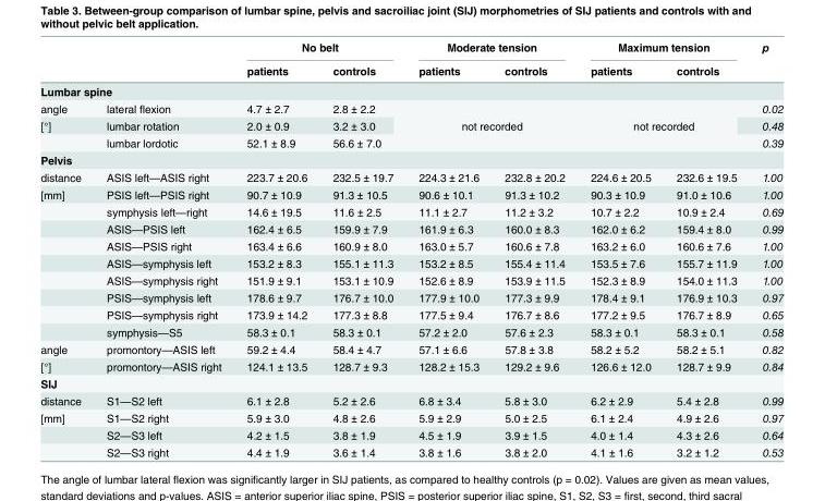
<table><thead><tr><td rowspan="2"></td><td rowspan="2"></td><td colspan="2">No belt</td><td colspan="2">Moderate tension</td><td colspan="2">Maximum tension</td><td rowspan="2">p</td></tr><tr><td>patients</td><td>controls</td><td>patients</td><td>controls</td><td>patients</td><td>controls</td></tr></thead><tbody><tr><td colspan="9">Lumbar spine</td></tr><tr><td>angle</td><td>lateral flexion</td><td>4.7 ± 2.7</td><td>2.8 ± 2.2</td><td rowspan="3" colspan="2">not recorded</td><td rowspan="3" colspan="2">not recorded</td><td>0.02</td></tr><tr><td rowspan="2">[°]</td><td>lumbar rotation</td><td>2.0 ± 0.9</td><td>3.2 ± 3.0</td><td>0.48</td></tr><tr><td>lumbar lordotic</td><td>52.1 ± 8.9</td><td>56.6 ± 7.0</td><td>0.39</td></tr><tr><td colspan="9">Pelvis</td></tr><tr><td>distance</td><td>ASIS left—ASIS right</td><td>223.7 ± 20.6</td><td>232.5 ± 19.7</td><td>224.3 ± 21.6</td><td>232.8 ± 20.2</td><td>224.6 ± 20.5</td><td>232.6 ± 19.5</td><td>1.00</td></tr><tr><td rowspan="9">[mm]</td><td>PSIS left—PSIS right</td><td>90.7 ± 10.9</td><td>91.3 ± 10.5</td><td>90.6 ± 10.1</td><td>91.3 ± 10.2</td><td>90.3 ± 10.9</td><td>91.0 ± 10.6</td><td>1.00</td></tr><tr><td>symphysis left—right</td><td>14.6 ± 19.5</td><td>11.6 ± 2.5</td><td>11.1 ± 2.7</td><td>11.2 ± 3.2</td><td>10.7 ± 2.2</td><td>10.9 ± 2.4</td><td>0.69</td></tr><tr><td>ASIS—PSIS left</td><td>162.4 ± 6.5</td><td>159.9 ± 7.9</td><td>161.9 ± 6.3</td><td>160.0 ± 8.3</td><td>162.0 ± 6.2</td><td>159.4 ± 8.0</td><td>0.99</td></tr><tr><td>ASIS—PSIS right</td><td>163.4 ± 6.6</td><td>160.9 ± 8.0</td><td>163.0 ± 5.7</td><td>160.6 ± 7.8</td><td>163.2 ± 6.0</td><td>160.6 ± 7.6</td><td>1.00</td></tr><tr><td>ASIS—symphysis left</td><td>153.2 ± 8.3</td><td>155.1 ± 11.3</td><td>153.2 ± 8.5</td><td>155.4 ± 11.4</td><td>153.5 ± 7.6</td><td>155.7 ± 11.9</td><td>1.00</td></tr><tr><td>ASIS—symphysis right</td><td>151.9 ± 9.1</td><td>153.1 ± 10.9</td><td>152.6 ± 8.9</td><td>153.9 ± 11.5</td><td>152.3 ± 8.9</td><td>154.0 ± 11.3</td><td>1.00</td></tr><tr><td>PSIS—symphysis left</td><td>178.6 ± 9.7</td><td>176.7 ± 10.0</td><td>177.9 ± 10.0</td><td>177.3 ± 9.9</td><td>178.4 ± 9.1</td><td>176.9 ± 10.3</td><td>0.97</td></tr><tr><td>PSIS—symphysis right</td><td>173.9 ± 14.2</td><td>177.3 ± 8.8</td><td>177.5 ± 9.4</td><td>176.7 ± 8.6</td><td>177.2 ± 9.5</td><td>176.7 ± 8.9</td><td>0.65</td></tr><tr><td>symphysis—S5</td><td>58.3 ± 0.1</td><td>58.3 ± 0.1</td><td>57.2 ± 2.0</td><td>57.6 ± 2.3</td><td>58.3 ± 0.1</td><td>58.3 ± 0.1</td><td>0.58</td></tr><tr><td>angle</td><td>promontory—ASIS left</td><td>59.2 ± 4.4</td><td>58.4 ± 4.7</td><td>57.1 ± 6.6</td><td>57.8 ± 3.8</td><td>58.2 ± 5.2</td><td>58.2 ± 5.1</td><td>0.82</td></tr><tr><td>[°]</td><td>promontory—ASIS right</td><td>124.1 ± 13.5</td><td>128.7 ± 9.3</td><td>128.2 ± 15.3</td><td>129.2 ± 9.6</td><td>126.6 ± 12.0</td><td>128.7 ± 9.9</td><td>0.84</td></tr><tr><td colspan="9">SIJ</td></tr><tr><td>distance</td><td>S1—S2 left</td><td>6.1 ± 2.8</td><td>5.2 ± 2.6</td><td>6.8 ± 3.4</td><td>5.8 ± 3.0</td><td>6.2 ± 2.9</td><td>5.4 ± 2.8</td><td>0.99</td></tr><tr><td rowspan="3">[mm]</td><td>S1—S2 right</td><td>5.9 ± 3.0</td><td>4.8 ± 2.6</td><td>5.9 ± 2.9</td><td>5.0 ± 2.5</td><td>6.1 ± 2.4</td><td>4.9 ± 2.6</td><td>0.97</td></tr><tr><td>S2—S3 left</td><td>4.2 ± 1.5</td><td>3.8 ± 1.9</td><td>4.5 ± 1.9</td><td>3.9 ± 1.5</td><td>4.0 ± 1.4</td><td>4.3 ± 2.6</td><td>0.64</td></tr><tr><td>S2—S3 right</td><td>4.4 ± 1.9</td><td>3.6 ± 1.4</td><td>3.8 ± 1.6</td><td>3.8 ± 2.0</td><td>4.1 ± 1.6</td><td>3.2 ± 1.2</td><td>0.53</td></tr></tbody></table>